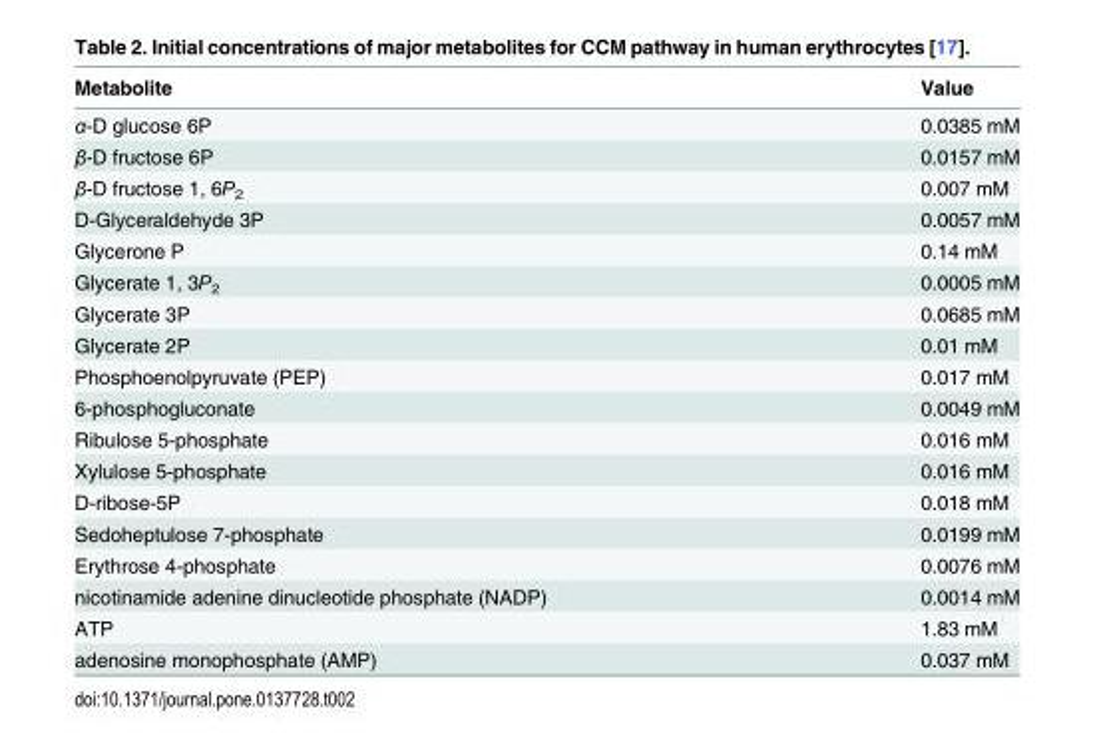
<table><thead><tr><td>Metabolite</td><td>Value</td></tr></thead><tbody><tr><td>α-D glucose 6P</td><td>0.0385 mM</td></tr><tr><td>β-D fructose 6P</td><td>0.0157 mM</td></tr><tr><td>β-D fructose 1, 6P<sub>2</sub></td><td>0.007 mM</td></tr><tr><td>D-Glyceraldehyde 3P</td><td>0.0057 mM</td></tr><tr><td>Glycerone P</td><td>0.14 mM</td></tr><tr><td>Glycerate 1, 3P<sub>2</sub></td><td>0.0005 mM</td></tr><tr><td>Glycerate 3P</td><td>0.0685 mM</td></tr><tr><td>Glycerate 2P</td><td>0.01 mM</td></tr><tr><td>Phosphoenolpyruvate (PEP)</td><td>0.017 mM</td></tr><tr><td>6-phosphogluconate</td><td>0.0049 mM</td></tr><tr><td>Ribulose 5-phosphate</td><td>0.016 mM</td></tr><tr><td>Xylulose 5-phosphate</td><td>0.016 mM</td></tr><tr><td>D-ribose-5P</td><td>0.018 mM</td></tr><tr><td>Sedoheptulose 7-phosphate</td><td>0.0199 mM</td></tr><tr><td>Erythrose 4-phosphate</td><td>0.0076 mM</td></tr><tr><td>nicotinamide adenine dinucleotide phosphate (NADP)</td><td>0.0014 mM</td></tr><tr><td>ATP</td><td>1.83 mM</td></tr><tr><td>adenosine monophosphate (AMP)</td><td>0.037 mM</td></tr></tbody></table>